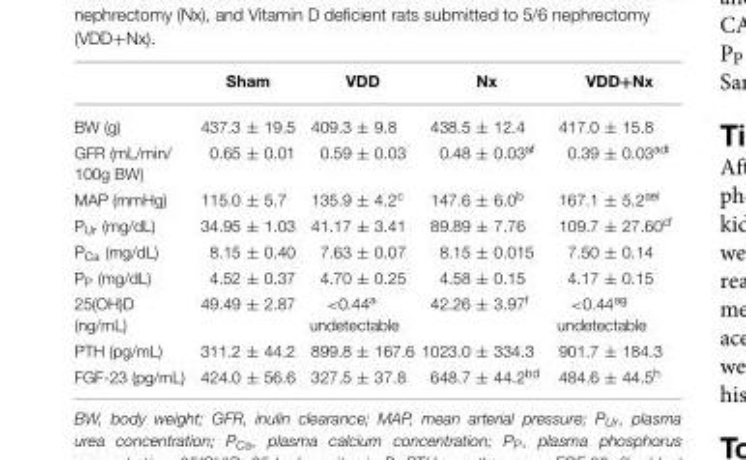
<table><thead><tr><td></td><td>Sham</td><td>VDD</td><td>Nx</td><td>VDD+Nx</td></tr></thead><tbody><tr><td>BW (g)</td><td>437.3 ± 19.5</td><td>409.3 ± 9.8</td><td>438.5 ± 12.4</td><td>417.0 ± 15.8</td></tr><tr><td>GFR (mL/min/ 100g BW)</td><td>0.65 ± 0.01</td><td>0.59 ± 0.03</td><td>0.48 ± 0.03<sup>af</sup></td><td>0.39 ± 0.03<sup>adi</sup></td></tr><tr><td>MAP (mmHg)</td><td>115.0 ± 5.7</td><td>135.9 ± 4.2<sup>c</sup></td><td>147.6 ± 6.0<sup>b</sup></td><td>167.1 ± 5.2<sup>aei</sup></td></tr><tr><td>P<sub>Ur</sub> (mg/dL)</td><td>34.95 ± 1.03</td><td>41.17 ± 3.41</td><td>89.89 ± 7.76</td><td>109.7 ± 27.60<sup>cf</sup></td></tr><tr><td>P<sub>Ca</sub> (mg/dL)</td><td>8.15 ± 0.40</td><td>7.63 ± 0.07</td><td>8.15 ± 0.015</td><td>7.50 ± 0.14</td></tr><tr><td>P<sub>P</sub> (mg/dL)</td><td>4.52 ± 0.37</td><td>4.70 ± 0.25</td><td>4.58 ± 0.15</td><td>4.17 ± 0.15</td></tr><tr><td>25(OH)D (ng/mL)</td><td>49.49 ± 2.87</td><td>&lt;0.44<sup>a</sup> undetectable</td><td>42.26 ± 3.97<sup>f</sup></td><td>&lt;0.44<sup>ag</sup> undetectable</td></tr><tr><td>PTH (pg/mL)</td><td>311.2 ± 44.2</td><td>899.8 ± 167.6</td><td>1023.0 ± 334.3</td><td>901.7 ± 184.3</td></tr><tr><td>FGF-23 (pg/mL)</td><td>424.0 ± 56.6</td><td>327.5 ± 37.8</td><td>648.7 ± 44.2<sup>bd</sup></td><td>484.6 ± 44.5<sup>h</sup></td></tr></tbody></table>